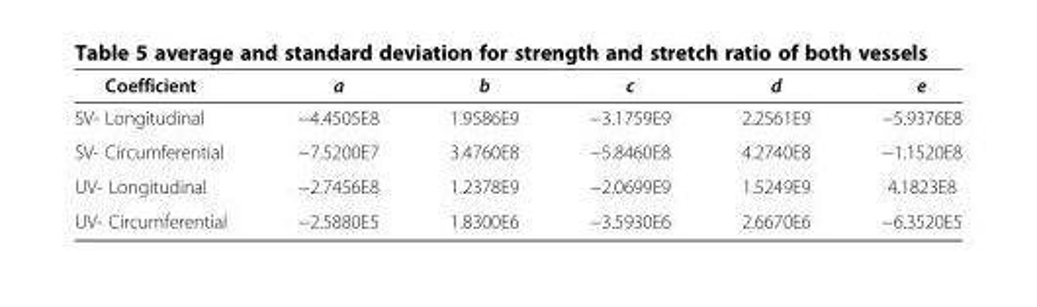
<table><thead><tr><td>Coefficient</td><td>a</td><td>b</td><td>c</td><td>d</td><td>e</td></tr></thead><tbody><tr><td>SV- Longitudinal</td><td>−4.4505E8</td><td>1.9586E9</td><td>−3.1759E9</td><td>2.2561E9</td><td>−5.9376E8</td></tr><tr><td>SV- Circumferential</td><td>−7.5200E7</td><td>3.4760E8</td><td>−5.8460E8</td><td>4.2740E8</td><td>−1.1520E8</td></tr><tr><td>UV- Longitudinal</td><td>−2.7456E8</td><td>1.2378E9</td><td>−2.0699E9</td><td>1.5249E9</td><td>4.1823E8</td></tr><tr><td>UV- Circumferential</td><td>−2.5880E5</td><td>1.8300E6</td><td>−3.5930E6</td><td>2.6670E6</td><td>−6.3520E5</td></tr></tbody></table>